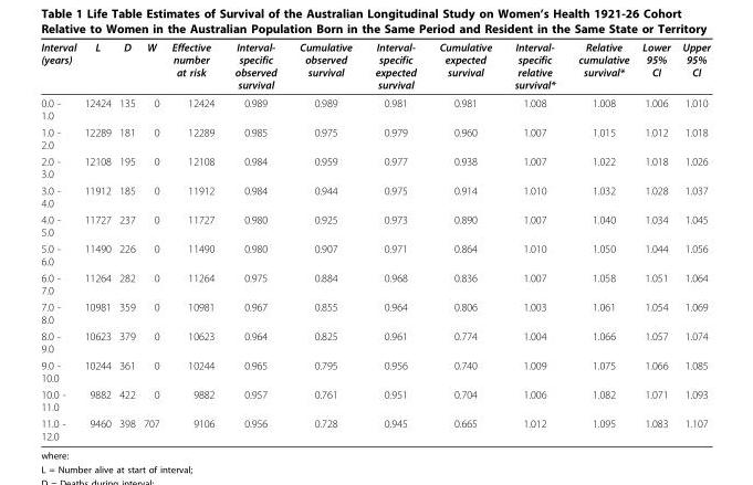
<table><thead><tr><td>Interval (years)</td><td>L</td><td>D</td><td>W</td><td>Effective number at risk</td><td>Interval- specific observed survival</td><td>Cumulative observed survival</td><td>Interval- specific expected survival</td><td>Cumulative expected survival</td><td>Interval- specific relative survival*</td><td>Relative cumulative survival*</td><td>Lower 95% CI</td><td>Upper 95% CI</td></tr></thead><tbody><tr><td>0.0 - 1.0</td><td>12424</td><td>135</td><td>0</td><td>12424</td><td>0.989</td><td>0.989</td><td>0.981</td><td>0.981</td><td>1.008</td><td>1.008</td><td>1.006</td><td>1.010</td></tr><tr><td>1.0 - 2.0</td><td>12289</td><td>181</td><td>0</td><td>12289</td><td>0.985</td><td>0.975</td><td>0.979</td><td>0.960</td><td>1.007</td><td>1.015</td><td>1.012</td><td>1.018</td></tr><tr><td>2.0 - 3.0</td><td>12108</td><td>195</td><td>0</td><td>12108</td><td>0.984</td><td>0.959</td><td>0.977</td><td>0.938</td><td>1.007</td><td>1.022</td><td>1.018</td><td>1.026</td></tr><tr><td>3.0 - 4.0</td><td>11912</td><td>185</td><td>0</td><td>11912</td><td>0.984</td><td>0.944</td><td>0.975</td><td>0.914</td><td>1.010</td><td>1.032</td><td>1.028</td><td>1.037</td></tr><tr><td>4.0 - 5.0</td><td>11727</td><td>237</td><td>0</td><td>11727</td><td>0.980</td><td>0.925</td><td>0.973</td><td>0.890</td><td>1.007</td><td>1.040</td><td>1.034</td><td>1.045</td></tr><tr><td>5.0 - 6.0</td><td>11490</td><td>226</td><td>0</td><td>11490</td><td>0.980</td><td>0.907</td><td>0.971</td><td>0.864</td><td>1.010</td><td>1.050</td><td>1.044</td><td>1.056</td></tr><tr><td>6.0 - 7.0</td><td>11264</td><td>282</td><td>0</td><td>11264</td><td>0.975</td><td>0.884</td><td>0.968</td><td>0.836</td><td>1.007</td><td>1.058</td><td>1.051</td><td>1.064</td></tr><tr><td>7.0 - 8.0</td><td>10981</td><td>359</td><td>0</td><td>10981</td><td>0.967</td><td>0.855</td><td>0.964</td><td>0.806</td><td>1.003</td><td>1.061</td><td>1.054</td><td>1.069</td></tr><tr><td>8.0 - 9.0</td><td>10623</td><td>379</td><td>0</td><td>10623</td><td>0.964</td><td>0.825</td><td>0.961</td><td>0.774</td><td>1.004</td><td>1.066</td><td>1.057</td><td>1.074</td></tr><tr><td>9.0 - 10.0</td><td>10244</td><td>361</td><td>0</td><td>10244</td><td>0.965</td><td>0.795</td><td>0.956</td><td>0.740</td><td>1.009</td><td>1.075</td><td>1.066</td><td>1.085</td></tr><tr><td>10.0 - 11.0</td><td>9882</td><td>422</td><td>0</td><td>9882</td><td>0.957</td><td>0.761</td><td>0.951</td><td>0.704</td><td>1.006</td><td>1.082</td><td>1.071</td><td>1.093</td></tr><tr><td>11.0 - 12.0</td><td>9460</td><td>398</td><td>707</td><td>9106</td><td>0.956</td><td>0.728</td><td>0.945</td><td>0.665</td><td>1.012</td><td>1.095</td><td>1.083</td><td>1.107</td></tr></tbody></table>